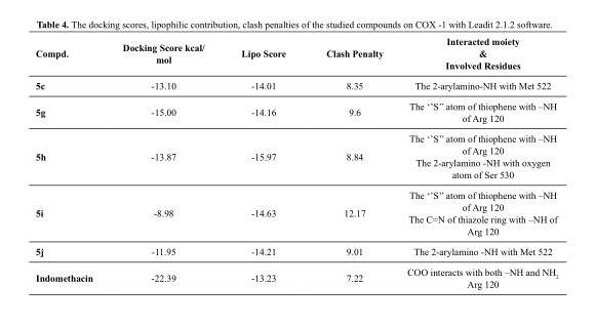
<table><thead><tr><td>Compd.</td><td>Docking Score kcal/ mol</td><td>Lipo Score</td><td>Clash Penalty</td><td>Interacted moiety &amp; Involved Residues</td></tr></thead><tbody><tr><td>5c</td><td>-13.10</td><td>-14.01</td><td>8.35</td><td>The 2-arylamino-NH with Met 522</td></tr><tr><td>5g</td><td>-15.00</td><td>-14.16</td><td>9.6</td><td>The ‘’S’’ atom of thiophene with –NH of Arg 120</td></tr><tr><td>5h</td><td>-13.87</td><td>-15.97</td><td>8.84</td><td>The ‘’S’’ atom of thiophene with –NH of Arg 120 The 2-arylamino -NH with oxygen atom of Ser 530</td></tr><tr><td>5i</td><td>-8.98</td><td>-14.63</td><td>12.17</td><td>The ‘’S’’ atom of thiophene with –NH of Arg 120 The C=N of thiazole ring with –NH of Arg 120</td></tr><tr><td>5j</td><td>-11.95</td><td>-14.21</td><td>9.01</td><td>The 2-arylamino -NH with Met 522</td></tr><tr><td>Indomethacin</td><td>-22.39</td><td>-13.23</td><td>7.22</td><td>COO interacts with both –NH and NH<sub>2</sub> Arg 120</td></tr></tbody></table>